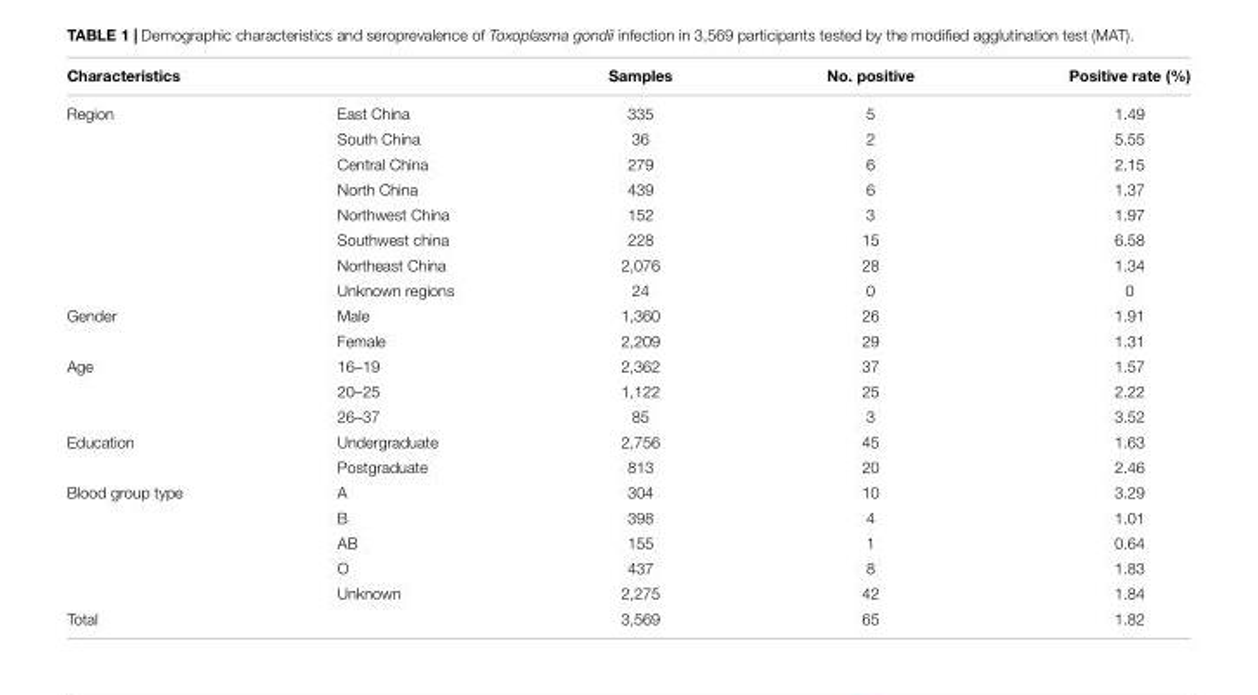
<table><thead><tr><td colspan="2">Characteristics</td><td rowspan="2">Samples 335</td><td rowspan="2">No. positive 5</td><td rowspan="2">Positive rate (%) 1.49</td></tr><tr><td>Region</td><td>East China</td></tr></thead><tbody><tr><td></td><td>South China</td><td>36</td><td>2</td><td>5.55</td></tr><tr><td></td><td>Central China</td><td>279</td><td>6</td><td>2.15</td></tr><tr><td></td><td>North China</td><td>439</td><td>6</td><td>1.37</td></tr><tr><td></td><td>Northwest China</td><td>152</td><td>3</td><td>1.97</td></tr><tr><td></td><td>Southwest china</td><td>228</td><td>15</td><td>6.58</td></tr><tr><td></td><td>Northeast China</td><td>2,076</td><td>28</td><td>1.34</td></tr><tr><td></td><td>Unknown regions</td><td>24</td><td>0</td><td>0</td></tr><tr><td rowspan="2">Gender</td><td>Male</td><td>1,360</td><td>26</td><td>1.91</td></tr><tr><td>Female</td><td>2,209</td><td>29</td><td>1.31</td></tr><tr><td rowspan="3">Age</td><td>16–19</td><td>2,362</td><td>37</td><td>1.57</td></tr><tr><td>20–25</td><td>1,122</td><td>25</td><td>2.22</td></tr><tr><td>26–37</td><td>85</td><td>3</td><td>3.52</td></tr><tr><td rowspan="2">Education</td><td>Undergraduate</td><td>2,756</td><td>45</td><td>1.63</td></tr><tr><td>Postgraduate</td><td>813</td><td>20</td><td>2.46</td></tr><tr><td rowspan="5">Blood group type</td><td>A</td><td>304</td><td>10</td><td>3.29</td></tr><tr><td>B</td><td>398</td><td>4</td><td>1.01</td></tr><tr><td>AB</td><td>155</td><td>1</td><td>0.64</td></tr><tr><td>O</td><td>437</td><td>8</td><td>1.83</td></tr><tr><td>Unknown</td><td>2,275</td><td>42</td><td>1.84</td></tr><tr><td>Total</td><td></td><td>3,569</td><td>65</td><td>1.82</td></tr></tbody></table>